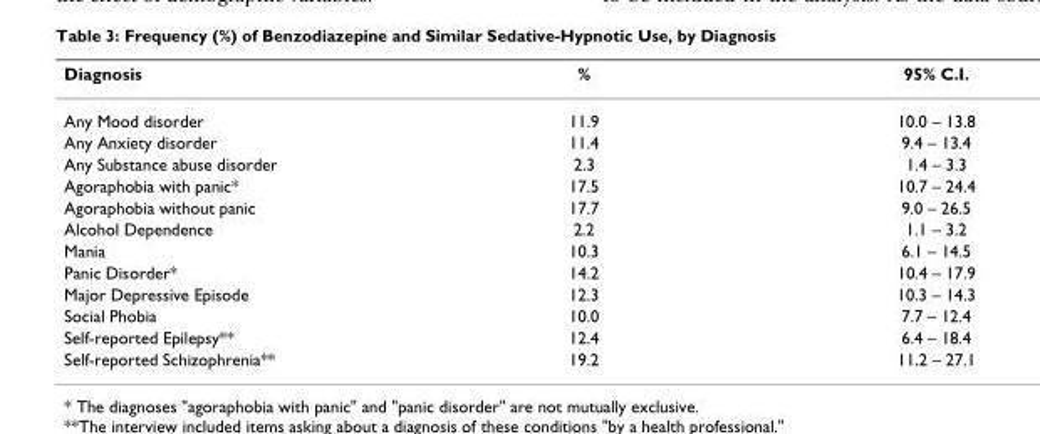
<table><thead><tr><td>Diagnosis</td><td>%</td><td>95% C.I.</td></tr></thead><tbody><tr><td>Any Mood disorder</td><td>11.9</td><td>10.0 – 13.8</td></tr><tr><td>Any Anxiety disorder</td><td>11.4</td><td>9.4 – 13.4</td></tr><tr><td>Any Substance abuse disorder</td><td>2.3</td><td>1.4 – 3.3</td></tr><tr><td>Agoraphobia with panic*</td><td>17.5</td><td>10.7 – 24.4</td></tr><tr><td>Agoraphobia without panic</td><td>17.7</td><td>9.0 – 26.5</td></tr><tr><td>Alcohol Dependence</td><td>2.2</td><td>1.1 – 3.2</td></tr><tr><td>Mania</td><td>10.3</td><td>6.1 – 14.5</td></tr><tr><td>Panic Disorder*</td><td>14.2</td><td>10.4 – 17.9</td></tr><tr><td>Major Depressive Episode</td><td>12.3</td><td>10.3 – 14.3</td></tr><tr><td>Social Phobia</td><td>10.0</td><td>7.7 – 12.4</td></tr><tr><td>Self-reported Epilepsy**</td><td>12.4</td><td>6.4 – 18.4</td></tr><tr><td>Self-reported Schizophrenia**</td><td>19.2</td><td>11.2 – 27.1</td></tr></tbody></table>